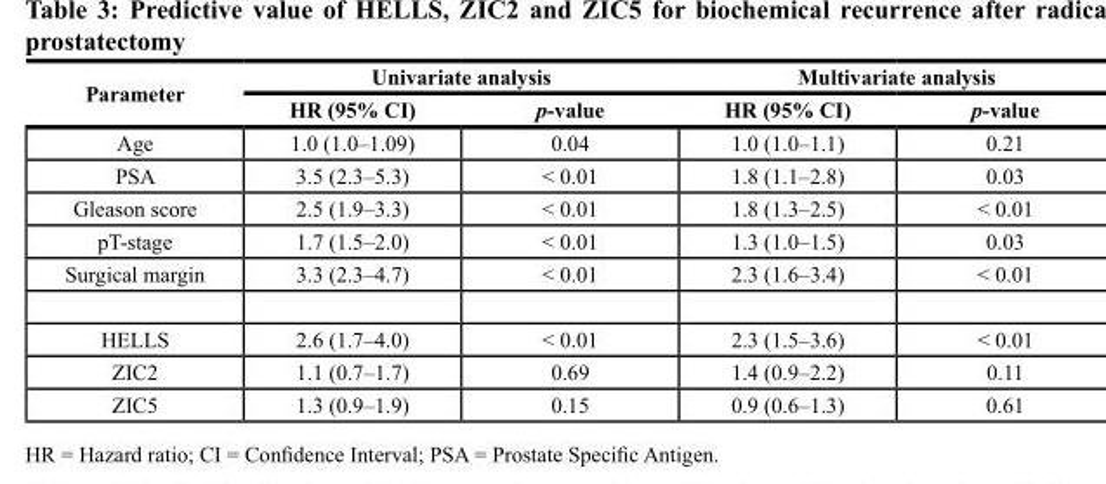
<table><thead><tr><td rowspan="2">Parameter</td><td colspan="2">Univariate analysis</td><td colspan="2">Multivariate analysis</td></tr><tr><td>HR (95% CI)</td><td>p-value</td><td>HR (95% CI)</td><td>p-value</td></tr></thead><tbody><tr><td>Age</td><td>1.0 (1.0–1.09)</td><td>0.04</td><td>1.0 (1.0–1.1)</td><td>0.21</td></tr><tr><td>PSA</td><td>3.5 (2.3–5.3)</td><td>&lt; 0.01</td><td>1.8 (1.1–2.8)</td><td>0.03</td></tr><tr><td>Gleason score</td><td>2.5 (1.9–3.3)</td><td>&lt; 0.01</td><td>1.8 (1.3–2.5)</td><td>&lt; 0.01</td></tr><tr><td>pT-stage</td><td>1.7 (1.5–2.0)</td><td>&lt; 0.01</td><td>1.3 (1.0–1.5)</td><td>0.03</td></tr><tr><td>Surgical margin</td><td>3.3 (2.3–4.7)</td><td>&lt; 0.01</td><td>2.3 (1.6–3.4)</td><td>&lt; 0.01</td></tr><tr><td>HELLS</td><td>2.6 (1.7–4.0)</td><td>&lt; 0.01</td><td>2.3 (1.5–3.6)</td><td>&lt; 0.01</td></tr><tr><td>ZIC2</td><td>1.1 (0.7–1.7)</td><td>0.69</td><td>1.4 (0.9–2.2)</td><td>0.11</td></tr><tr><td>ZIC5</td><td>1.3 (0.9–1.9)</td><td>0.15</td><td>0.9 (0.6–1.3)</td><td>0.61</td></tr></tbody></table>